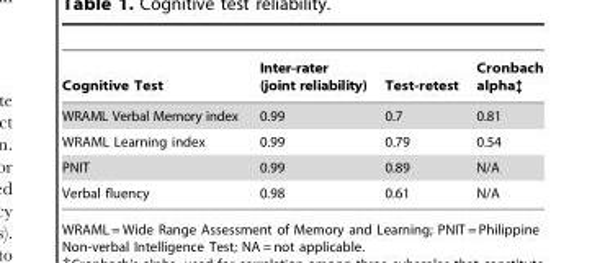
<table><thead><tr><td>Cognitive Test</td><td>Inter-rater (joint reliability)</td><td>Test-retest</td><td>Cronbach alpha‡</td></tr></thead><tbody><tr><td>WRAML Verbal Memory index</td><td>0.99</td><td>0.7</td><td>0.81</td></tr><tr><td>WRAML Learning index</td><td>0.99</td><td>0.79</td><td>0.54</td></tr><tr><td>PNIT</td><td>0.99</td><td>0.89</td><td>N/A</td></tr><tr><td>Verbal fluency</td><td>0.98</td><td>0.61</td><td>N/A</td></tr></tbody></table>